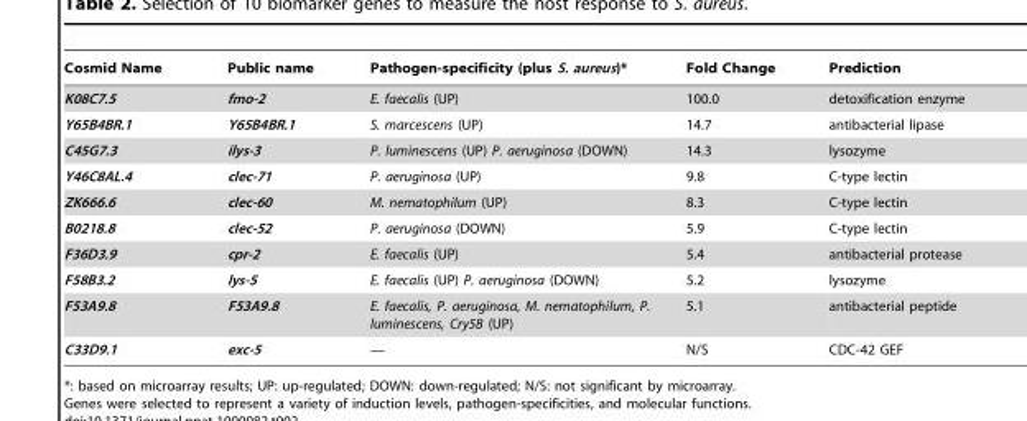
<table><thead><tr><td>Cosmid Name</td><td>Public name</td><td>Pathogen-specificity (plus S. aureus)*</td><td>Fold Change</td><td>Prediction</td></tr></thead><tbody><tr><td>K08C7.5</td><td>fmo-2</td><td>E. faecalis (UP)</td><td>100.0</td><td>detoxification enzyme</td></tr><tr><td>Y65B4BR.1</td><td>Y65B4BR.1</td><td>S. marcescens (UP)</td><td>14.7</td><td>antibacterial lipase</td></tr><tr><td>C45G7.3</td><td>ilys-3</td><td>P. luminescens (UP) P. aeruginosa (DOWN)</td><td>14.3</td><td>lysozyme</td></tr><tr><td>Y46C8AL.4</td><td>clec-71</td><td>P. aeruginosa (UP)</td><td>9.8</td><td>C-type lectin</td></tr><tr><td>ZK666.6</td><td>clec-60</td><td>M. nematophilum (UP)</td><td>8.3</td><td>C-type lectin</td></tr><tr><td>B0218.8</td><td>clec-52</td><td>P. aeruginosa (DOWN)</td><td>5.9</td><td>C-type lectin</td></tr><tr><td>F36D3.9</td><td>cpr-2</td><td>E. faecalis (UP)</td><td>5.4</td><td>antibacterial protease</td></tr><tr><td>F58B3.2</td><td>lys-5</td><td>E. faecalis (UP) P. aeruginosa (DOWN)</td><td>5.2</td><td>lysozyme</td></tr><tr><td>F53A9.8</td><td>F53A9.8</td><td>E. faecalis, P. aeruginosa, M. nematophilum, P. luminescens, Cry5B (UP)</td><td>5.1</td><td>antibacterial peptide</td></tr><tr><td>C33D9.1</td><td>exc-5</td><td>—</td><td>N/S</td><td>CDC-42 GEF</td></tr></tbody></table>